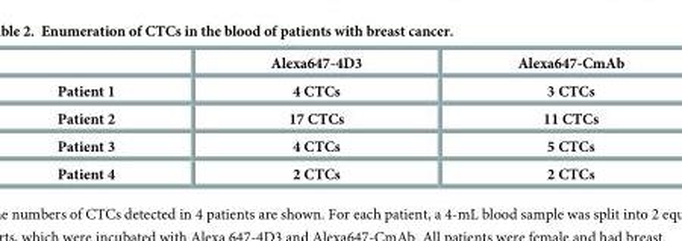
<table><thead><tr><td></td><td>Alexa647-4D3</td><td>Alexa647-CmAb</td></tr></thead><tbody><tr><td>Patient 1</td><td>4 CTCs</td><td>3 CTCs</td></tr><tr><td>Patient 2</td><td>17 CTCs</td><td>11 CTCs</td></tr><tr><td>Patient 3</td><td>4 CTCs</td><td>5 CTCs</td></tr><tr><td>Patient 4</td><td>2 CTCs</td><td>2 CTCs</td></tr></tbody></table>